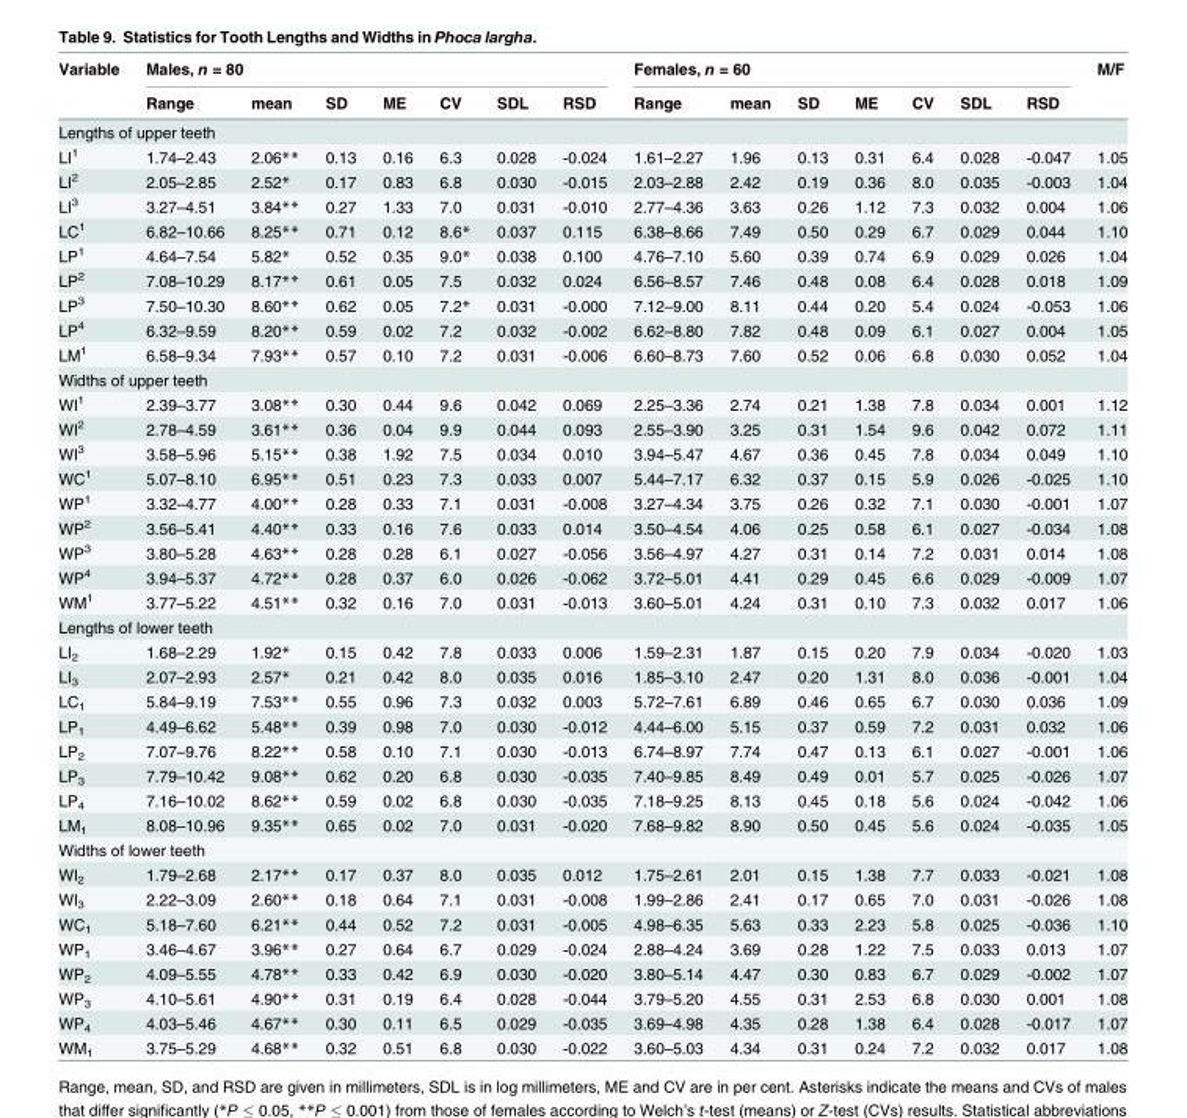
<table><thead><tr><td rowspan="2">Variable</td><td colspan="7">Males, n = 80</td><td colspan="7">Females, n = 60</td><td rowspan="2">M/F</td></tr><tr><td>Range</td><td>mean</td><td>SD</td><td>ME</td><td>CV</td><td>SDL</td><td>RSD</td><td>Range</td><td>mean</td><td>SD</td><td>ME</td><td>CV</td><td>SDL</td><td>RSD</td></tr></thead><tbody><tr><td colspan="16">Lengths of upper teeth</td></tr><tr><td>LI<sup>1</sup></td><td>1.74–2.43</td><td>2.06**</td><td>0.13</td><td>0.16</td><td>6.3</td><td>0.028</td><td>-0.024</td><td>1.61–2.27</td><td>1.96</td><td>0.13</td><td>0.31</td><td>6.4</td><td>0.028</td><td>-0.047</td><td>1.05</td></tr><tr><td>LI<sup>2</sup></td><td>2.05–2.85</td><td>2.52*</td><td>0.17</td><td>0.83</td><td>6.8</td><td>0.030</td><td>-0.015</td><td>2.03–2.88</td><td>2.42</td><td>0.19</td><td>0.36</td><td>8.0</td><td>0.035</td><td>-0.003</td><td>1.04</td></tr><tr><td>LI<sup>3</sup></td><td>3.27–4.51</td><td>3.84**</td><td>0.27</td><td>1.33</td><td>7.0</td><td>0.031</td><td>-0.010</td><td>2.77–4.36</td><td>3.63</td><td>0.26</td><td>1.12</td><td>7.3</td><td>0.032</td><td>0.004</td><td>1.06</td></tr><tr><td>LC<sup>1</sup></td><td>6.82–10.66</td><td>8.25**</td><td>0.71</td><td>0.12</td><td>8.6*</td><td>0.037</td><td>0.115</td><td>6.38–8.66</td><td>7.49</td><td>0.50</td><td>0.29</td><td>6.7</td><td>0.029</td><td>0.044</td><td>1.10</td></tr><tr><td>LP<sup>1</sup></td><td>4.64–7.54</td><td>5.82*</td><td>0.52</td><td>0.35</td><td>9.0*</td><td>0.038</td><td>0.100</td><td>4.76–7.10</td><td>5.60</td><td>0.39</td><td>0.74</td><td>6.9</td><td>0.029</td><td>0.026</td><td>1.04</td></tr><tr><td>LP<sup>2</sup></td><td>7.08–10.29</td><td>8.17**</td><td>0.61</td><td>0.05</td><td>7.5</td><td>0.032</td><td>0.024</td><td>6.56–8.57</td><td>7.46</td><td>0.48</td><td>0.08</td><td>6.4</td><td>0.028</td><td>0.018</td><td>1.09</td></tr><tr><td>LP<sup>3</sup></td><td>7.50–10.30</td><td>8.60**</td><td>0.62</td><td>0.05</td><td>7.2*</td><td>0.031</td><td>-0.000</td><td>7.12–9.00</td><td>8.11</td><td>0.44</td><td>0.20</td><td>5.4</td><td>0.024</td><td>-0.053</td><td>1.06</td></tr><tr><td>LP<sup>4</sup></td><td>6.32–9.59</td><td>8.20**</td><td>0.59</td><td>0.02</td><td>7.2</td><td>0.032</td><td>-0.002</td><td>6.62–8.80</td><td>7.82</td><td>0.48</td><td>0.09</td><td>6.1</td><td>0.027</td><td>0.004</td><td>1.05</td></tr><tr><td>LM<sup>1</sup></td><td>6.58–9.34</td><td>7.93**</td><td>0.57</td><td>0.10</td><td>7.2</td><td>0.031</td><td>-0.006</td><td>6.60–8.73</td><td>7.60</td><td>0.52</td><td>0.06</td><td>6.8</td><td>0.030</td><td>0.052</td><td>1.04</td></tr><tr><td colspan="16">Widths of upper teeth</td></tr><tr><td>WI<sup>1</sup></td><td>2.39–3.77</td><td>3.08**</td><td>0.30</td><td>0.44</td><td>9.6</td><td>0.042</td><td>0.069</td><td>2.25–3.36</td><td>2.74</td><td>0.21</td><td>1.38</td><td>7.8</td><td>0.034</td><td>0.001</td><td>1.12</td></tr><tr><td>WI<sup>2</sup></td><td>2.78–4.59</td><td>3.61**</td><td>0.36</td><td>0.04</td><td>9.9</td><td>0.044</td><td>0.093</td><td>2.55–3.90</td><td>3.25</td><td>0.31</td><td>1.54</td><td>9.6</td><td>0.042</td><td>0.072</td><td>1.11</td></tr><tr><td>WI<sup>3</sup></td><td>3.58–5.96</td><td>5.15**</td><td>0.38</td><td>1.92</td><td>7.5</td><td>0.034</td><td>0.010</td><td>3.94–5.47</td><td>4.67</td><td>0.36</td><td>0.45</td><td>7.8</td><td>0.034</td><td>0.049</td><td>1.10</td></tr><tr><td>WC<sup>1</sup></td><td>5.07–8.10</td><td>6.95**</td><td>0.51</td><td>0.23</td><td>7.3</td><td>0.033</td><td>0.007</td><td>5.44–7.17</td><td>6.32</td><td>0.37</td><td>0.15</td><td>5.9</td><td>0.026</td><td>-0.025</td><td>1.10</td></tr><tr><td>WP<sup>1</sup></td><td>3.32–4.77</td><td>4.00**</td><td>0.28</td><td>0.33</td><td>7.1</td><td>0.031</td><td>-0.008</td><td>3.27–4.34</td><td>3.75</td><td>0.26</td><td>0.32</td><td>7.1</td><td>0.030</td><td>-0.001</td><td>1.07</td></tr><tr><td>WP<sup>2</sup></td><td>3.56–5.41</td><td>4.40**</td><td>0.33</td><td>0.16</td><td>7.6</td><td>0.033</td><td>0.014</td><td>3.50–4.54</td><td>4.06</td><td>0.25</td><td>0.58</td><td>6.1</td><td>0.027</td><td>-0.034</td><td>1.08</td></tr><tr><td>WP<sup>3</sup></td><td>3.80–5.28</td><td>4.63**</td><td>0.28</td><td>0.28</td><td>6.1</td><td>0.027</td><td>-0.056</td><td>3.56–4.97</td><td>4.27</td><td>0.31</td><td>0.14</td><td>7.2</td><td>0.031</td><td>0.014</td><td>1.08</td></tr><tr><td>WP<sup>4</sup></td><td>3.94–5.37</td><td>4.72**</td><td>0.28</td><td>0.37</td><td>6.0</td><td>0.026</td><td>-0.062</td><td>3.72–5.01</td><td>4.41</td><td>0.29</td><td>0.45</td><td>6.6</td><td>0.029</td><td>-0.009</td><td>1.07</td></tr><tr><td>WM<sup>1</sup></td><td>3.77–5.22</td><td>4.51**</td><td>0.32</td><td>0.16</td><td>7.0</td><td>0.031</td><td>-0.013</td><td>3.60–5.01</td><td>4.24</td><td>0.31</td><td>0.10</td><td>7.3</td><td>0.032</td><td>0.017</td><td>1.06</td></tr><tr><td colspan="16">Lengths of lower teeth</td></tr><tr><td>LI<sub>2</sub></td><td>1.68–2.29</td><td>1.92*</td><td>0.15</td><td>0.42</td><td>7.8</td><td>0.033</td><td>0.006</td><td>1.59–2.31</td><td>1.87</td><td>0.15</td><td>0.20</td><td>7.9</td><td>0.034</td><td>-0.020</td><td>1.03</td></tr><tr><td>LI<sub>3</sub></td><td>2.07–2.93</td><td>2.57*</td><td>0.21</td><td>0.42</td><td>8.0</td><td>0.035</td><td>0.016</td><td>1.85–3.10</td><td>2.47</td><td>0.20</td><td>1.31</td><td>8.0</td><td>0.036</td><td>-0.001</td><td>1.04</td></tr><tr><td>LC<sub>1</sub></td><td>5.84–9.19</td><td>7.53**</td><td>0.55</td><td>0.96</td><td>7.3</td><td>0.032</td><td>0.003</td><td>5.72–7.61</td><td>6.89</td><td>0.46</td><td>0.65</td><td>6.7</td><td>0.030</td><td>0.036</td><td>1.09</td></tr><tr><td>LP<sub>1</sub></td><td>4.49–6.62</td><td>5.48**</td><td>0.39</td><td>0.98</td><td>7.0</td><td>0.030</td><td>-0.012</td><td>4.44–6.00</td><td>5.15</td><td>0.37</td><td>0.59</td><td>7.2</td><td>0.031</td><td>0.032</td><td>1.06</td></tr><tr><td>LP<sub>2</sub></td><td>7.07–9.76</td><td>8.22**</td><td>0.58</td><td>0.10</td><td>7.1</td><td>0.030</td><td>-0.013</td><td>6.74–8.97</td><td>7.74</td><td>0.47</td><td>0.13</td><td>6.1</td><td>0.027</td><td>-0.001</td><td>1.06</td></tr><tr><td>LP<sub>3</sub></td><td>7.79–10.42</td><td>9.08**</td><td>0.62</td><td>0.20</td><td>6.8</td><td>0.030</td><td>-0.035</td><td>7.40–9.85</td><td>8.49</td><td>0.49</td><td>0.01</td><td>5.7</td><td>0.025</td><td>-0.026</td><td>1.07</td></tr><tr><td>LP<sub>4</sub></td><td>7.16–10.02</td><td>8.62**</td><td>0.59</td><td>0.02</td><td>6.8</td><td>0.030</td><td>-0.035</td><td>7.18–9.25</td><td>8.13</td><td>0.45</td><td>0.18</td><td>5.6</td><td>0.024</td><td>-0.042</td><td>1.06</td></tr><tr><td>LM<sub>1</sub></td><td>8.08–10.96</td><td>9.35**</td><td>0.65</td><td>0.02</td><td>7.0</td><td>0.031</td><td>-0.020</td><td>7.68–9.82</td><td>8.90</td><td>0.50</td><td>0.45</td><td>5.6</td><td>0.024</td><td>-0.035</td><td>1.05</td></tr><tr><td colspan="16">Widths of lower teeth</td></tr><tr><td>WI<sub>2</sub></td><td>1.79–2.68</td><td>2.17**</td><td>0.17</td><td>0.37</td><td>8.0</td><td>0.035</td><td>0.012</td><td>1.75–2.61</td><td>2.01</td><td>0.15</td><td>1.38</td><td>7.7</td><td>0.033</td><td>-0.021</td><td>1.08</td></tr><tr><td>WI<sub>3</sub></td><td>2.22–3.09</td><td>2.60**</td><td>0.18</td><td>0.64</td><td>7.1</td><td>0.031</td><td>-0.008</td><td>1.99–2.86</td><td>2.41</td><td>0.17</td><td>0.65</td><td>7.0</td><td>0.031</td><td>-0.026</td><td>1.08</td></tr><tr><td>WC<sub>1</sub></td><td>5.18–7.60</td><td>6.21**</td><td>0.44</td><td>0.52</td><td>7.2</td><td>0.031</td><td>-0.005</td><td>4.98–6.35</td><td>5.63</td><td>0.33</td><td>2.23</td><td>5.8</td><td>0.025</td><td>-0.036</td><td>1.10</td></tr><tr><td>WP<sub>1</sub></td><td>3.46–4.67</td><td>3.96**</td><td>0.27</td><td>0.64</td><td>6.7</td><td>0.029</td><td>-0.024</td><td>2.88–4.24</td><td>3.69</td><td>0.28</td><td>1.22</td><td>7.5</td><td>0.033</td><td>0.013</td><td>1.07</td></tr><tr><td>WP<sub>2</sub></td><td>4.09–5.55</td><td>4.78**</td><td>0.33</td><td>0.42</td><td>6.9</td><td>0.030</td><td>-0.020</td><td>3.80–5.14</td><td>4.47</td><td>0.30</td><td>0.83</td><td>6.7</td><td>0.029</td><td>-0.002</td><td>1.07</td></tr><tr><td>WP<sub>3</sub></td><td>4.10–5.61</td><td>4.90**</td><td>0.31</td><td>0.19</td><td>6.4</td><td>0.028</td><td>-0.044</td><td>3.79–5.20</td><td>4.55</td><td>0.31</td><td>2.53</td><td>6.8</td><td>0.030</td><td>0.001</td><td>1.08</td></tr><tr><td>WP<sub>4</sub></td><td>4.03–5.46</td><td>4.67**</td><td>0.30</td><td>0.11</td><td>6.5</td><td>0.029</td><td>-0.035</td><td>3.69–4.98</td><td>4.35</td><td>0.28</td><td>1.38</td><td>6.4</td><td>0.028</td><td>-0.017</td><td>1.07</td></tr><tr><td>WM<sub>1</sub></td><td>3.75–5.29</td><td>4.68**</td><td>0.32</td><td>0.51</td><td>6.8</td><td>0.030</td><td>-0.022</td><td>3.60–5.03</td><td>4.34</td><td>0.31</td><td>0.24</td><td>7.2</td><td>0.032</td><td>0.017</td><td>1.08</td></tr></tbody></table>